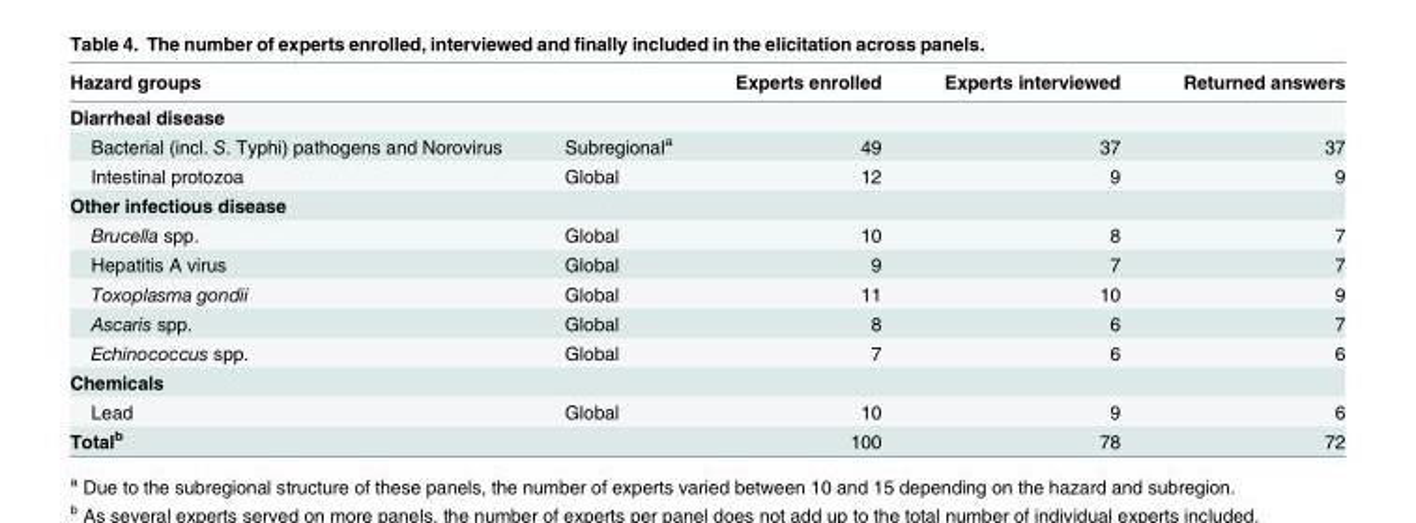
<table><thead><tr><td>Hazard groups</td><td></td><td>Experts enrolled</td><td>Experts interviewed</td><td>Returned answers</td></tr></thead><tbody><tr><td colspan="5">Diarrheal disease</td></tr><tr><td>Bacterial (incl. S. Typhi) pathogens and Norovirus</td><td>Subregional<sup>a</sup></td><td>49</td><td>37</td><td>37</td></tr><tr><td>Intestinal protozoa</td><td>Global</td><td>12</td><td>9</td><td>9</td></tr><tr><td colspan="5">Other infectious disease</td></tr><tr><td>Brucella spp.</td><td>Global</td><td>10</td><td>8</td><td>7</td></tr><tr><td>Hepatitis A virus</td><td>Global</td><td>9</td><td>7</td><td>7</td></tr><tr><td>Toxoplasma gondii</td><td>Global</td><td>11</td><td>10</td><td>9</td></tr><tr><td>Ascaris spp.</td><td>Global</td><td>8</td><td>6</td><td>7</td></tr><tr><td>Echinococcus spp.</td><td>Global</td><td>7</td><td>6</td><td>6</td></tr><tr><td colspan="5">Chemicals</td></tr><tr><td>Lead</td><td>Global</td><td>10</td><td>9</td><td>6</td></tr><tr><td>Total<sup>b</sup></td><td></td><td>100</td><td>78</td><td>72</td></tr></tbody></table>